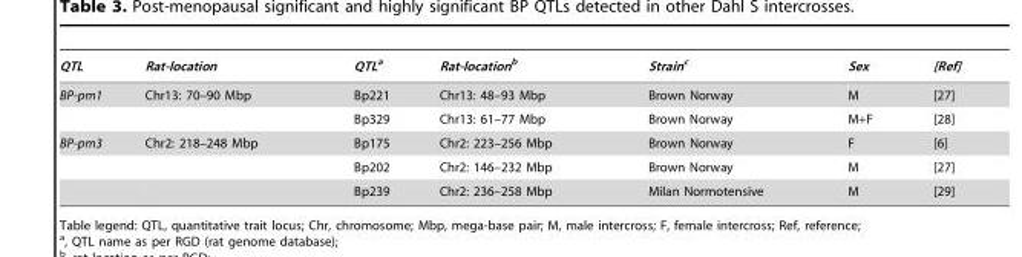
<table><thead><tr><td>QTL</td><td>Rat-location</td><td>QTLa</td><td>Rat-locationb</td><td>Strainc</td><td>Sex</td><td>[Ref]</td></tr></thead><tbody><tr><td rowspan="2">BP-pm1</td><td>Chr13: 70–90 Mbp</td><td>Bp221</td><td>Chr13: 48–93 Mbp</td><td>Brown Norway</td><td>M</td><td>[27]</td></tr><tr><td></td><td>Bp329</td><td>Chr13: 61–77 Mbp</td><td>Brown Norway</td><td>M+F</td><td>[28]</td></tr><tr><td rowspan="3">BP-pm3</td><td>Chr2: 218–248 Mbp</td><td>Bp175</td><td>Chr2: 223–256 Mbp</td><td>Brown Norway</td><td>F</td><td>[6]</td></tr><tr><td></td><td>Bp202</td><td>Chr2: 146–232 Mbp</td><td>Brown Norway</td><td>M</td><td>[27]</td></tr><tr><td></td><td>Bp239</td><td>Chr2: 236–258 Mbp</td><td>Milan Normotensive</td><td>M</td><td>[29]</td></tr></tbody></table>